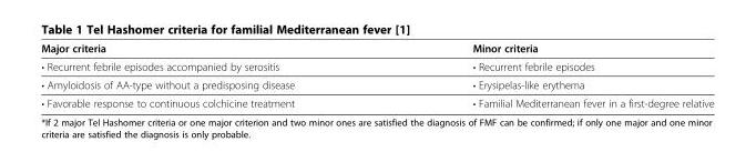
<table><thead><tr><td>Major criteria</td><td>Minor criteria</td></tr></thead><tbody><tr><td>• Recurrent febrile episodes accompanied by serositis</td><td>• Recurrent febrile episodes</td></tr><tr><td>• Amyloidosis of AA-type without a predisposing disease</td><td>• Erysipelas-like erythema</td></tr><tr><td>• Favorable response to continuous colchicine treatment</td><td>• Familial Mediterranean fever in a first-degree relative</td></tr></tbody></table>